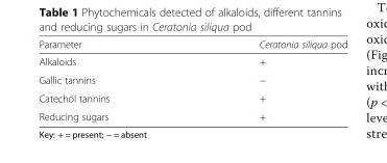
<table><thead><tr><td>Parameter</td><td>Ceratonia siliqua pod</td></tr></thead><tbody><tr><td>Alkaloids</td><td>+</td></tr><tr><td>Gallic tannins</td><td>−</td></tr><tr><td>Catechol tannins</td><td>+</td></tr><tr><td>Reducing sugars</td><td>+</td></tr></tbody></table>